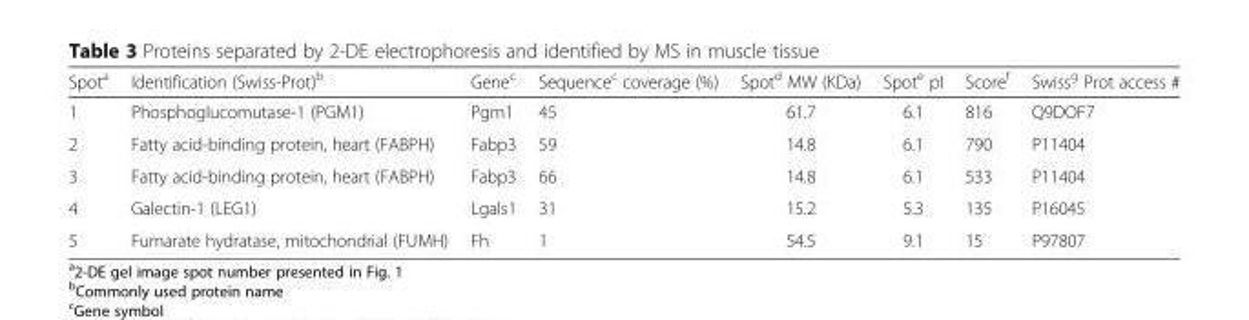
<table><thead><tr><td>Spot<sup>a</sup></td><td>Identification (Swiss-Prot)<sup>b</sup></td><td>Gene<sup>c</sup></td><td>Sequence<sup>c</sup> coverage (%)</td><td>Spot<sup>d</sup> MW (KDa)</td><td>Spot<sup>e</sup> pI</td><td>Score<sup>f</sup></td><td>Swiss<sup>g</sup> Prot access #</td></tr></thead><tbody><tr><td>1</td><td>Phosphoglucomutase-1 (PGM1)</td><td>Pgm1</td><td>45</td><td>61.7</td><td>6.1</td><td>816</td><td>Q9DOF7</td></tr><tr><td>2</td><td>Fatty acid-binding protein, heart (FABPH)</td><td>Fabp3</td><td>59</td><td>14.8</td><td>6.1</td><td>790</td><td>P11404</td></tr><tr><td>3</td><td>Fatty acid-binding protein, heart (FABPH)</td><td>Fabp3</td><td>66</td><td>14.8</td><td>6.1</td><td>533</td><td>P11404</td></tr><tr><td>4</td><td>Galectin-1 (LEG1)</td><td>Lgals1</td><td>31</td><td>15.2</td><td>5.3</td><td>135</td><td>P16045</td></tr><tr><td>5</td><td>Fumarate hydratase, mitochondrial (FUMH)</td><td>Fh</td><td>1</td><td>54.5</td><td>9.1</td><td>15</td><td>P97807</td></tr></tbody></table>